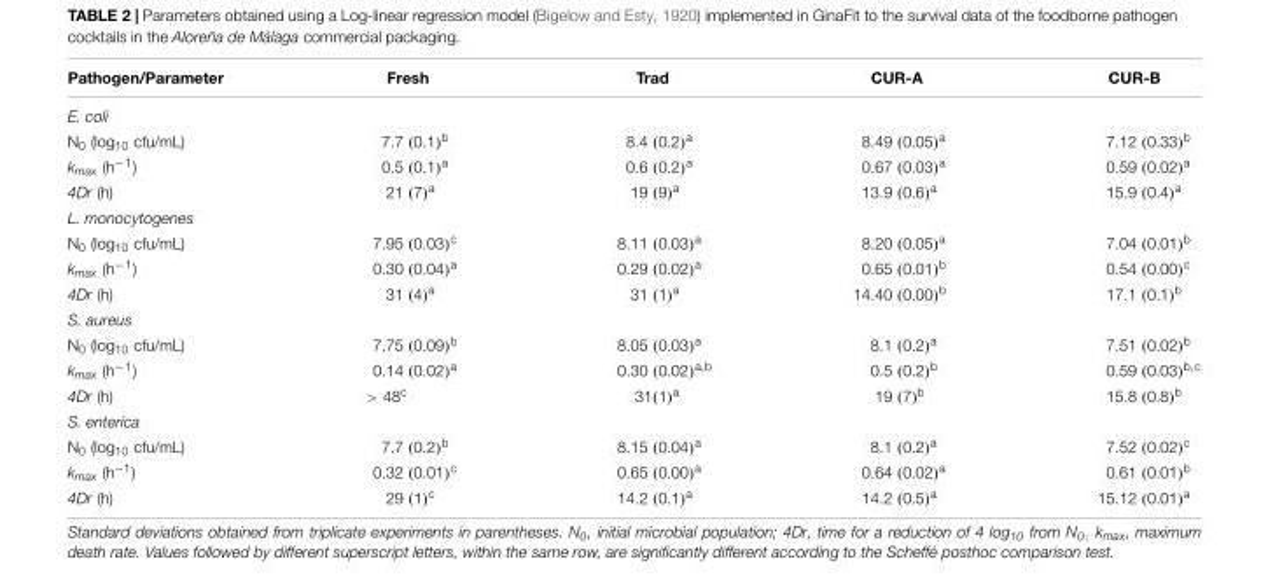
<table><thead><tr><td>Pathogen/Parameter</td><td>Fresh</td><td>Trad</td><td>CUR-A</td><td>CUR-B</td></tr></thead><tbody><tr><td colspan="5">E. coli</td></tr><tr><td>N<sub>0</sub> (log<sub>10</sub> cfu/mL)</td><td>7.7 (0.1)<sup>b</sup></td><td>8.4 (0.2)<sup>a</sup></td><td>8.49 (0.05)<sup>a</sup></td><td>7.12 (0.33)<sup>b</sup></td></tr><tr><td>k<sub>max</sub> (h<sup>−1</sup>)</td><td>0.5 (0.1)<sup>a</sup></td><td>0.6 (0.2)<sup>a</sup></td><td>0.67 (0.03)<sup>a</sup></td><td>0.59 (0.02)<sup>a</sup></td></tr><tr><td>4Dr (h)</td><td>21 (7)<sup>a</sup></td><td>19 (9)<sup>a</sup></td><td>13.9 (0.6)<sup>a</sup></td><td>15.9 (0.4)<sup>a</sup></td></tr><tr><td colspan="5">L. monocytogenes</td></tr><tr><td>N<sub>0</sub> (log<sub>10</sub> cfu/mL)</td><td>7.95 (0.03)<sup>c</sup></td><td>8.11 (0.03)<sup>a</sup></td><td>8.20 (0.05)<sup>a</sup></td><td>7.04 (0.01)<sup>b</sup></td></tr><tr><td>k<sub>max</sub> (h<sup>−1</sup>)</td><td>0.30 (0.04)<sup>a</sup></td><td>0.29 (0.02)<sup>a</sup></td><td>0.65 (0.01)<sup>b</sup></td><td>0.54 (0.00)<sup>c</sup></td></tr><tr><td>4Dr (h)</td><td>31 (4)<sup>a</sup></td><td>31 (1)<sup>a</sup></td><td>14.40 (0.00)<sup>b</sup></td><td>17.1 (0.1)<sup>b</sup></td></tr><tr><td colspan="5">S. aureus</td></tr><tr><td>N<sub>0</sub> (log<sub>10</sub> cfu/mL)</td><td>7.75 (0.09)<sup>b</sup></td><td>8.05 (0.03)<sup>a</sup></td><td>8.1 (0.2)<sup>a</sup></td><td>7.51 (0.02)<sup>b</sup></td></tr><tr><td>k<sub>max</sub> (h<sup>−1</sup>)</td><td>0.14 (0.02)<sup>a</sup></td><td>0.30 (0.02)<sup>a,b</sup></td><td>0.5 (0.2)<sup>b</sup></td><td>0.59 (0.03)<sup>b,c</sup></td></tr><tr><td>4Dr (h)</td><td>&gt; 48<sup>c</sup></td><td>31(1)<sup>a</sup></td><td>19 (7)<sup>b</sup></td><td>15.8 (0.8)<sup>b</sup></td></tr><tr><td colspan="5">S. enterica</td></tr><tr><td>N<sub>0</sub> (log<sub>10</sub> cfu/mL)</td><td>7.7 (0.2)<sup>b</sup></td><td>8.15 (0.04)<sup>a</sup></td><td>8.1 (0.2)<sup>a</sup></td><td>7.52 (0.02)<sup>c</sup></td></tr><tr><td>k<sub>max</sub> (h<sup>−1</sup>)</td><td>0.32 (0.01)<sup>c</sup></td><td>0.65 (0.00)<sup>a</sup></td><td>0.64 (0.02)<sup>a</sup></td><td>0.61 (0.01)<sup>b</sup></td></tr><tr><td>4Dr (h)</td><td>29 (1)<sup>c</sup></td><td>14.2 (0.1)<sup>a</sup></td><td>14.2 (0.5)<sup>a</sup></td><td>15.12 (0.01)<sup>a</sup></td></tr></tbody></table>